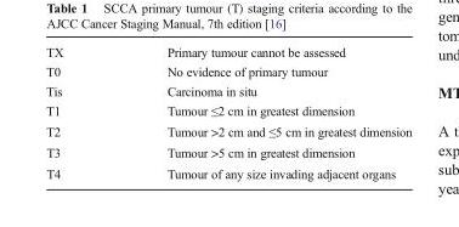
<table><tbody><tr><td>TX</td><td>Primary tumour cannot be assessed</td></tr><tr><td>T0</td><td>No evidence of primary tumour</td></tr><tr><td>Tis</td><td>Carcinoma in situ</td></tr><tr><td>T1</td><td>Tumour ≤2 cm in greatest dimension</td></tr><tr><td>T2</td><td>Tumour &gt;2 cm and ≤5 cm in greatest dimension</td></tr><tr><td>T3</td><td>Tumour &gt;5 cm in greatest dimension</td></tr><tr><td>T4</td><td>Tumour of any size invading adjacent organs</td></tr></tbody></table>